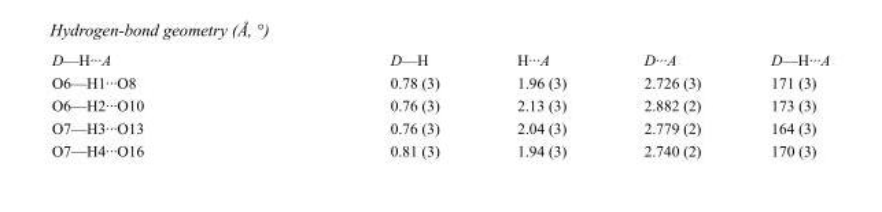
<table><tbody><tr><td>D—H···A</td><td>D—H</td><td>H···A</td><td>D···A</td><td>D—H···A</td></tr><tr><td>O6—H1···O8</td><td>0.78 (3)</td><td>1.96 (3)</td><td>2.726 (3)</td><td>171 (3)</td></tr><tr><td>O6—H2···O10</td><td>0.76 (3)</td><td>2.13 (3)</td><td>2.882 (2)</td><td>173 (3)</td></tr><tr><td>O7—H3···O13</td><td>0.76 (3)</td><td>2.04 (3)</td><td>2.779 (2)</td><td>164 (3)</td></tr><tr><td>O7—H4···O16</td><td>0.81 (3)</td><td>1.94 (3)</td><td>2.740 (2)</td><td>170 (3)</td></tr></tbody></table>